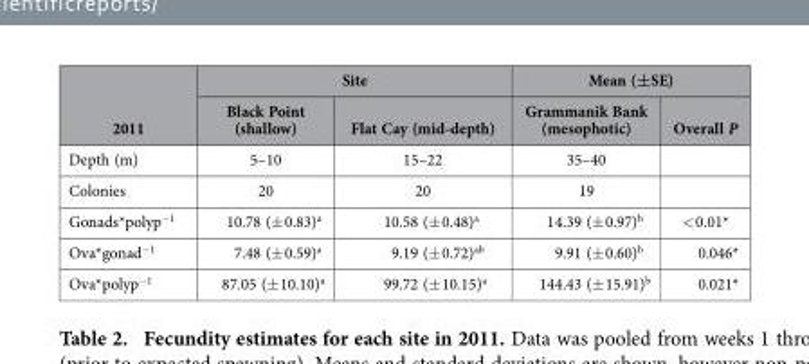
<table><thead><tr><td rowspan="2">2011</td><td colspan="2">Site</td><td colspan="2">Mean (±SE)</td></tr><tr><td>Black Point (shallow)</td><td>Flat Cay (mid-depth)</td><td>Grammanik Bank (mesophotic)</td><td>Overall P</td></tr></thead><tbody><tr><td>Depth (m)</td><td>5–10</td><td>15–22</td><td>35–40</td><td></td></tr><tr><td>Colonies</td><td>20</td><td>20</td><td>19</td><td></td></tr><tr><td>Gonads*polyp<sup>−1</sup></td><td>10.78 (± 0.83)<sup>a</sup></td><td>10.58 (± 0.48)<sup>a</sup></td><td>14.39 (± 0.97)<sup>b</sup></td><td>&lt; 0.01*</td></tr><tr><td>Ova*gonad<sup>−1</sup></td><td>7.48 (± 0.59)<sup>a</sup></td><td>9.19 (± 0.72)<sup>ab</sup></td><td>9.91 (± 0.60)<sup>b</sup></td><td>0.046*</td></tr><tr><td>Ova*polyp<sup>−1</sup></td><td>87.05 (± 10.10)<sup>a</sup></td><td>99.72 (± 10.15)<sup>a</sup></td><td>144.43 (± 15.91)<sup>b</sup></td><td>0.021*</td></tr></tbody></table>